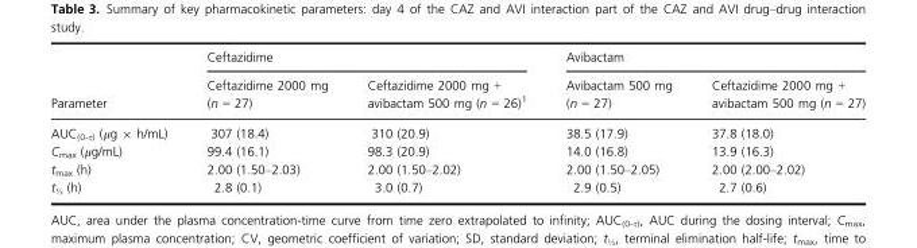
<table><thead><tr><td rowspan="2">Parameter</td><td rowspan="2">Ceftazidime Ceftazidime 2000 mg (n = 27)</td><td rowspan="2">Ceftazidime 2000 mg + avibactam 500 mg (n = 26)<sup>1</sup></td><td rowspan="2">Avibactam Avibactam 500 mg (n = 27)</td><td rowspan="2">Ceftazidime 2000 mg + avibactam 500 mg (n = 27)</td></tr><tr></tr></thead><tbody><tr><td>AUC<sub>(0-τ)</sub> (μg × h/mL)</td><td>307 (18.4)</td><td>310 (20.9)</td><td>38.5 (17.9)</td><td>37.8 (18.0)</td></tr><tr><td>C<sub>max</sub> (μg/mL)</td><td>99.4 (16.1)</td><td>98.3 (20.9)</td><td>14.0 (16.8)</td><td>13.9 (16.3)</td></tr><tr><td>t<sub>max</sub> (h)</td><td>2.00 (1.50–2.03)</td><td>2.00 (1.50–2.02)</td><td>2.00 (1.50–2.05)</td><td>2.00 (2.00–2.02)</td></tr><tr><td>t<sub>½</sub> (h)</td><td>2.8 (0.1)</td><td>3.0 (0.7)</td><td>2.9 (0.5)</td><td>2.7 (0.6)</td></tr></tbody></table>